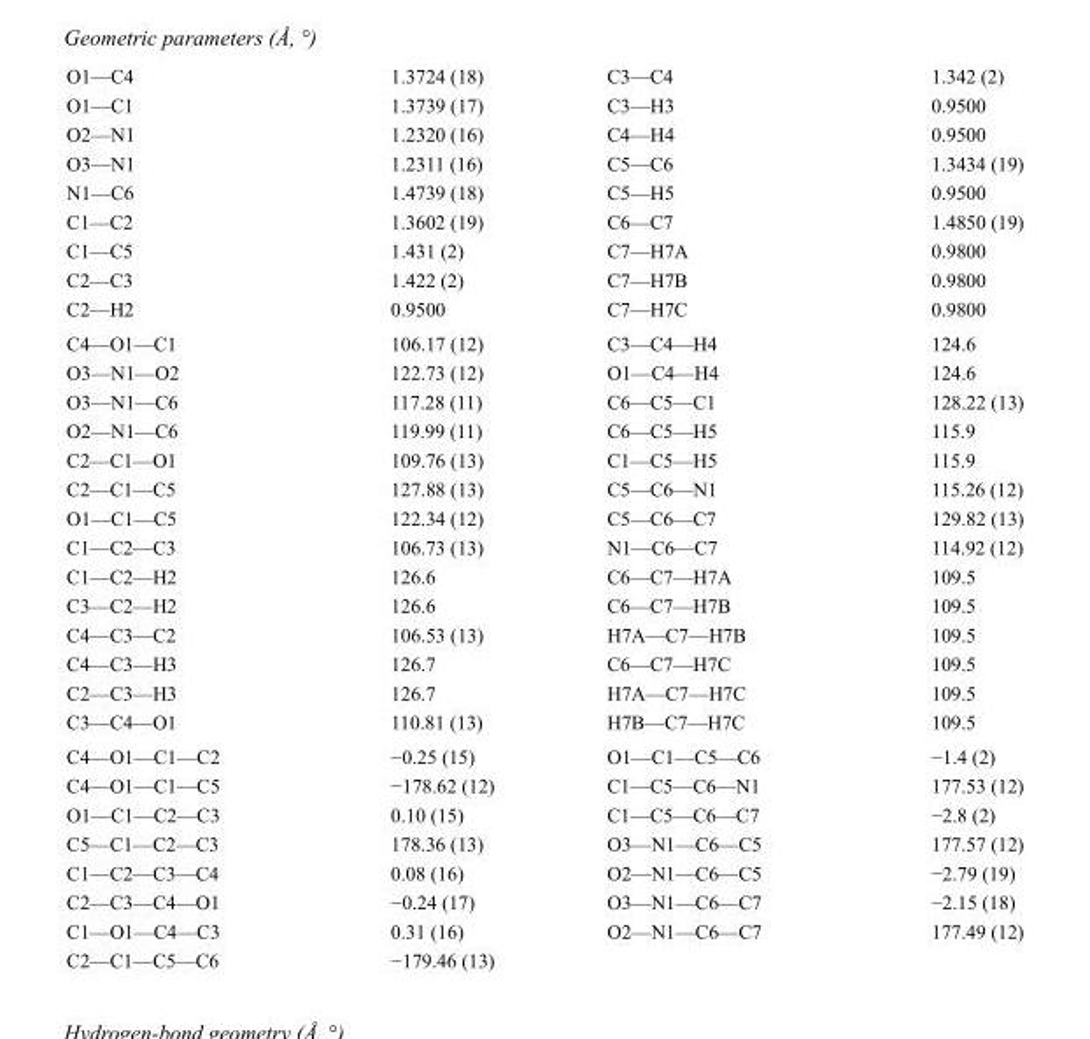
<table><tbody><tr><td>O1—C4</td><td>1.3724 (18)</td><td>C3—C4</td><td>1.342 (2)</td></tr><tr><td>O1—C1</td><td>1.3739 (17)</td><td>C3—H3</td><td>0.9500</td></tr><tr><td>O2—N1</td><td>1.2320 (16)</td><td>C4—H4</td><td>0.9500</td></tr><tr><td>O3—N1</td><td>1.2311 (16)</td><td>C5—C6</td><td>1.3434 (19)</td></tr><tr><td>N1—C6</td><td>1.4739 (18)</td><td>C5—H5</td><td>0.9500</td></tr><tr><td>C1—C2</td><td>1.3602 (19)</td><td>C6—C7</td><td>1.4850 (19)</td></tr><tr><td>C1—C5</td><td>1.431 (2)</td><td>C7—H7A</td><td>0.9800</td></tr><tr><td>C2—C3</td><td>1.422 (2)</td><td>C7—H7B</td><td>0.9800</td></tr><tr><td>C2—H2</td><td>0.9500</td><td>C7—H7C</td><td>0.9800</td></tr><tr><td>C4—O1—C1</td><td>106.17 (12)</td><td>C3—C4—H4</td><td>124.6</td></tr><tr><td>O3—N1—O2</td><td>122.73 (12)</td><td>O1—C4—H4</td><td>124.6</td></tr><tr><td>O3—N1—C6</td><td>117.28 (11)</td><td>C6—C5—C1</td><td>128.22 (13)</td></tr><tr><td>O2—N1—C6</td><td>119.99 (11)</td><td>C6—C5—H5</td><td>115.9</td></tr><tr><td>C2—C1—O1</td><td>109.76 (13)</td><td>C1—C5—H5</td><td>115.9</td></tr><tr><td>C2—C1—C5</td><td>127.88 (13)</td><td>C5—C6—N1</td><td>115.26 (12)</td></tr><tr><td>O1—C1—C5</td><td>122.34 (12)</td><td>C5—C6—C7</td><td>129.82 (13)</td></tr><tr><td>C1—C2—C3</td><td>106.73 (13)</td><td>N1—C6—C7</td><td>114.92 (12)</td></tr><tr><td>C1—C2—H2</td><td>126.6</td><td>C6—C7—H7A</td><td>109.5</td></tr><tr><td>C3—C2—H2</td><td>126.6</td><td>C6—C7—H7B</td><td>109.5</td></tr><tr><td>C4—C3—C2</td><td>106.53 (13)</td><td>H7A—C7—H7B</td><td>109.5</td></tr><tr><td>C4—C3—H3</td><td>126.7</td><td>C6—C7—H7C</td><td>109.5</td></tr><tr><td>C2—C3—H3</td><td>126.7</td><td>H7A—C7—H7C</td><td>109.5</td></tr><tr><td>C3—C4—O1</td><td>110.81 (13)</td><td>H7B—C7—H7C</td><td>109.5</td></tr><tr><td>C4—O1—C1—C2</td><td>−0.25 (15)</td><td>O1—C1—C5—C6</td><td>−1.4 (2)</td></tr><tr><td>C4—O1—C1—C5</td><td>−178.62 (12)</td><td>C1—C5—C6—N1</td><td>177.53 (12)</td></tr><tr><td>O1—C1—C2—C3</td><td>0.10 (15)</td><td>C1—C5—C6—C7</td><td>−2.8 (2)</td></tr><tr><td>C5—C1—C2—C3</td><td>178.36 (13)</td><td>O3—N1—C6—C5</td><td>177.57 (12)</td></tr><tr><td>C1—C2—C3—C4</td><td>0.08 (16)</td><td>O2—N1—C6—C5</td><td>−2.79 (19)</td></tr><tr><td>C2—C3—C4—O1</td><td>−0.24 (17)</td><td>O3—N1—C6—C7</td><td>−2.15 (18)</td></tr><tr><td>C1—O1—C4—C3</td><td>0.31 (16)</td><td>O2—N1—C6—C7</td><td>177.49 (12)</td></tr><tr><td>C2—C1—C5—C6</td><td>−179.46 (13)</td><td></td><td></td></tr></tbody></table>